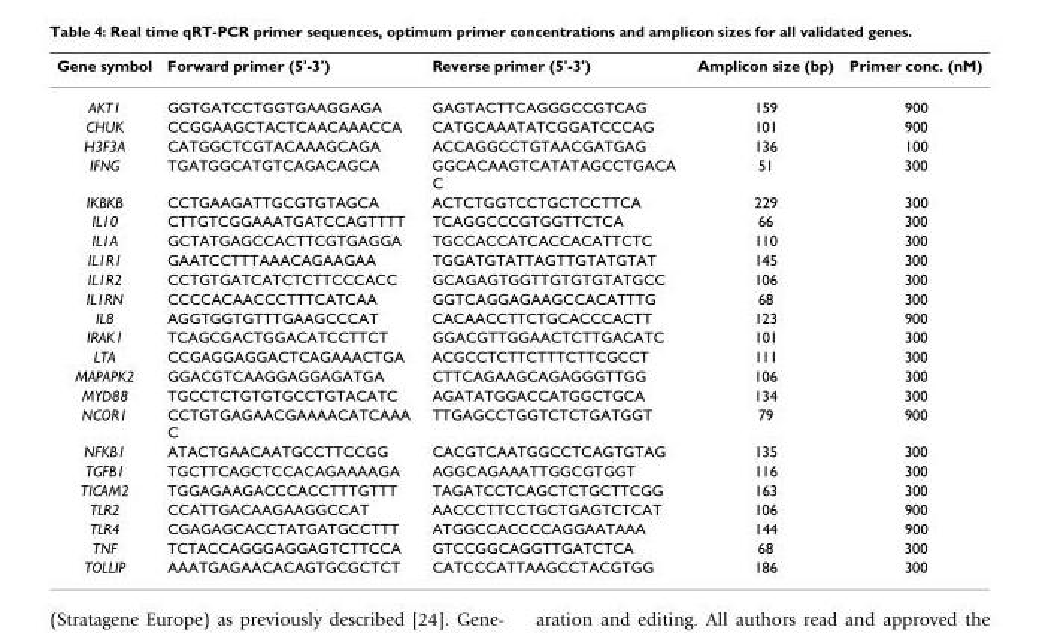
<table><thead><tr><td>Gene symbol</td><td>Forward primer (5&#x27;-3&#x27;)</td><td>Reverse primer (5&#x27;-3&#x27;)</td><td>Amplicon size (bp)</td><td>Primer conc. (nM)</td></tr></thead><tbody><tr><td>AKT1</td><td>GGTGATCCTGGTGAAGGAGA</td><td>GAGTACTTCAGGGCCGTCAG</td><td>159</td><td>900</td></tr><tr><td>CHUK</td><td>CCGGAAGCTACTCAACAAACCA</td><td>CATGCAAATATCGGATCCCAG</td><td>101</td><td>900</td></tr><tr><td>H3F3A</td><td>CATGGCTCGTACAAAGCAGA</td><td>ACCAGGCCTGTAACGATGAG</td><td>136</td><td>100</td></tr><tr><td>IFNG</td><td>TGATGGCATGTCAGACAGCA</td><td>GGCACAAGTCATATAGCCTGACA C</td><td>51</td><td>300</td></tr><tr><td>IKBKB</td><td>CCTGAAGATTGCGTGTAGCA</td><td>ACTCTGGTCCTGCTCCTTCA</td><td>229</td><td>300</td></tr><tr><td>IL10</td><td>CTTGTCGGAAATGATCCAGTTTT</td><td>TCAGGCCCGTGGTTCTCA</td><td>66</td><td>300</td></tr><tr><td>IL1A</td><td>GCTATGAGCCACTTCGTGAGGA</td><td>TGCCACCATCACCACATTCTC</td><td>110</td><td>300</td></tr><tr><td>IL1R1</td><td>GAATCCTTTAAACAGAAGAA</td><td>TGGATGTATTAGTTGTATGTAT</td><td>145</td><td>300</td></tr><tr><td>IL1R2</td><td>CCTGTGATCATCTCTTCCCACC</td><td>GCAGAGTGGTTGTGTGTATGCC</td><td>106</td><td>300</td></tr><tr><td>IL1RN</td><td>CCCCACAACCCTTTCATCAA</td><td>GGTCAGGAGAAGCCACATTTG</td><td>68</td><td>300</td></tr><tr><td>IL8</td><td>AGGTGGTGTTTGAAGCCCAT</td><td>CACAACCTTCTGCACCCACTT</td><td>123</td><td>900</td></tr><tr><td>IRAK1</td><td>TCAGCGACTGGACATCCTTCT</td><td>GGACGTTGGAACTCTTGACATC</td><td>101</td><td>300</td></tr><tr><td>LTA</td><td>CCGAGGAGGACTCAGAAACTGA</td><td>ACGCCTCTTCTTTCTTCGCCT</td><td>111</td><td>300</td></tr><tr><td>MAPAPK2</td><td>GGACGTCAAGGAGGAGATGA</td><td>CTTCAGAAGCAGAGGGTTGG</td><td>106</td><td>300</td></tr><tr><td>MYD88</td><td>TGCCTCTGTGTGCCTGTACATC</td><td>AGATATGGACCATGGCTGCA</td><td>134</td><td>300</td></tr><tr><td>NCOR1</td><td>CCTGTGAGAACGAAAACATCAAA C</td><td>TTGAGCCTGGTCTCTGATGGT</td><td>79</td><td>900</td></tr><tr><td>NFKB1</td><td>ATACTGAACAATGCCTTCCGG</td><td>CACGTCAATGGCCTCAGTGTAG</td><td>135</td><td>300</td></tr><tr><td>TGFB1</td><td>TGCTTCAGCTCCACAGAAAAGA</td><td>AGGCAGAAATTGGCGTGGT</td><td>116</td><td>300</td></tr><tr><td>TICAM2</td><td>TGGAGAAGACCCACCTTTGTTT</td><td>TAGATCCTCAGCTCTGCTTCGG</td><td>163</td><td>300</td></tr><tr><td>TLR2</td><td>CCATTGACAAGAAGGCCAT</td><td>AACCCTTCCTGCTGAGTCTCAT</td><td>106</td><td>900</td></tr><tr><td>TLR4</td><td>CGAGAGCACCTATGATGCCTTT</td><td>ATGGCCACCCCAGGAATAAA</td><td>144</td><td>900</td></tr><tr><td>TNF</td><td>TCTACCAGGGAGGAGTCTTCCA</td><td>GTCCGGCAGGTTGATCTCA</td><td>68</td><td>300</td></tr><tr><td>TOLLIP</td><td>AAATGAGAACACAGTGCGCTCT</td><td>CATCCCATTAAGCCTACGTGG</td><td>186</td><td>300</td></tr></tbody></table>